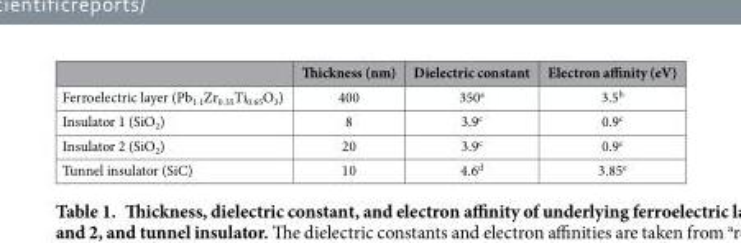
<table><thead><tr><td></td><td>Thickness (nm)</td><td>Dielectric constant</td><td>Electron affinity (eV)</td></tr></thead><tbody><tr><td>Ferroelectric layer (Pb<sub>1.1</sub>Zr<sub>0.35</sub>Ti<sub>0.65</sub>O<sub>3</sub>)</td><td>400</td><td>350<sup>a</sup></td><td>3.5<sup>b</sup></td></tr><tr><td>Insulator 1 (SiO<sub>2</sub>)</td><td>8</td><td>3.9<sup>c</sup></td><td>0.9<sup>c</sup></td></tr><tr><td>Insulator 2 (SiO<sub>2</sub>)</td><td>20</td><td>3.9<sup>c</sup></td><td>0.9<sup>c</sup></td></tr><tr><td>Tunnel insulator (SiC)</td><td>10</td><td>4.6<sup>d</sup></td><td>3.85<sup>e</sup></td></tr></tbody></table>